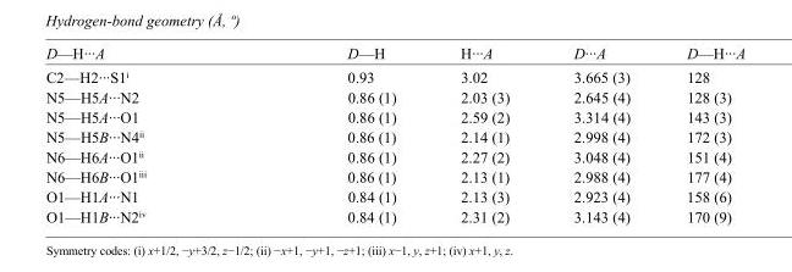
<table><tbody><tr><td>D—H···A</td><td>D—H</td><td>H···A</td><td>D···A</td><td>D—H···A</td></tr><tr><td>C2—H2···S1<sup>i</sup></td><td>0.93</td><td>3.02</td><td>3.665 (3)</td><td>128</td></tr><tr><td>N5—H5A···N2</td><td>0.86 (1)</td><td>2.03 (3)</td><td>2.645 (4)</td><td>128 (3)</td></tr><tr><td>N5—H5A···O1</td><td>0.86 (1)</td><td>2.59 (2)</td><td>3.314 (4)</td><td>143 (3)</td></tr><tr><td>N5—H5B···N4<sup>ii</sup></td><td>0.86 (1)</td><td>2.14 (1)</td><td>2.998 (4)</td><td>172 (3)</td></tr><tr><td>N6—H6A···O1<sup>ii</sup></td><td>0.86 (1)</td><td>2.27 (2)</td><td>3.048 (4)</td><td>151 (4)</td></tr><tr><td>N6—H6B···O1<sup>iii</sup></td><td>0.86 (1)</td><td>2.13 (1)</td><td>2.988 (4)</td><td>177 (4)</td></tr><tr><td>O1—H1A···N1</td><td>0.84 (1)</td><td>2.13 (3)</td><td>2.923 (4)</td><td>158 (6)</td></tr><tr><td>O1—H1B···N2<sup>iv</sup></td><td>0.84 (1)</td><td>2.31 (2)</td><td>3.143 (4)</td><td>170 (9)</td></tr></tbody></table>